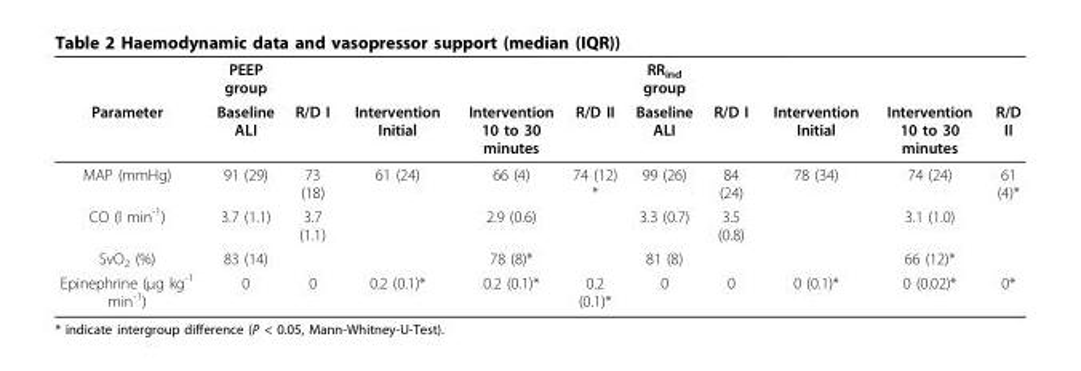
<table><thead><tr><td rowspan="2">Parameter</td><td rowspan="2">PEEP group Baseline ALI</td><td rowspan="2">R/D I</td><td rowspan="2">Intervention Initial</td><td rowspan="2">Intervention 10 to 30 minutes</td><td rowspan="2">R/D II</td><td rowspan="2">RR<sub>ind</sub> group Baseline ALI</td><td rowspan="2">R/D I</td><td rowspan="2">Intervention Initial</td><td rowspan="2">Intervention 10 to 30 minutes</td><td rowspan="2">R/D II</td></tr><tr></tr></thead><tbody><tr><td>MAP (mmHg)</td><td>91 (29)</td><td>73 (18)</td><td>61 (24)</td><td>66 (4)</td><td>74 (12) *</td><td>99 (26)</td><td>84 (24)</td><td>78 (34)</td><td>74 (24)</td><td>61 (4)*</td></tr><tr><td>CO (l min<sup>-1</sup>)</td><td>3.7 (1.1)</td><td>3.7 (1.1)</td><td></td><td>2.9 (0.6)</td><td></td><td>3.3 (0.7)</td><td>3.5 (0.8)</td><td></td><td>3.1 (1.0)</td><td></td></tr><tr><td>SvO<sub>2</sub> (%)</td><td>83 (14)</td><td></td><td></td><td>78 (8)*</td><td></td><td>81 (8)</td><td></td><td></td><td>66 (12)*</td><td></td></tr><tr><td>Epinephrine (μg kg<sup>-1</sup> min<sup>-1</sup>)</td><td>0</td><td>0</td><td>0.2 (0.1)*</td><td>0.2 (0.1)*</td><td>0.2 (0.1)*</td><td>0</td><td>0</td><td>0 (0.1)*</td><td>0 (0.02)*</td><td>0*</td></tr></tbody></table>